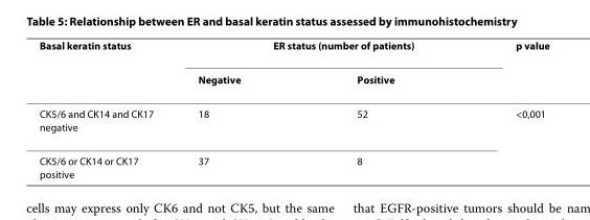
<table><thead><tr><td rowspan="2">Basal keratin status</td><td colspan="2">ER status (number of patients)</td><td rowspan="2">p value</td></tr><tr><td>Negative</td><td>Positive</td></tr></thead><tbody><tr><td>CK5/6 and CK14 and CK17 negative</td><td>18</td><td>52</td><td>&lt;0,001</td></tr><tr><td>CK5/6 or CK14 or CK17 positive</td><td>37</td><td>8</td><td></td></tr></tbody></table>